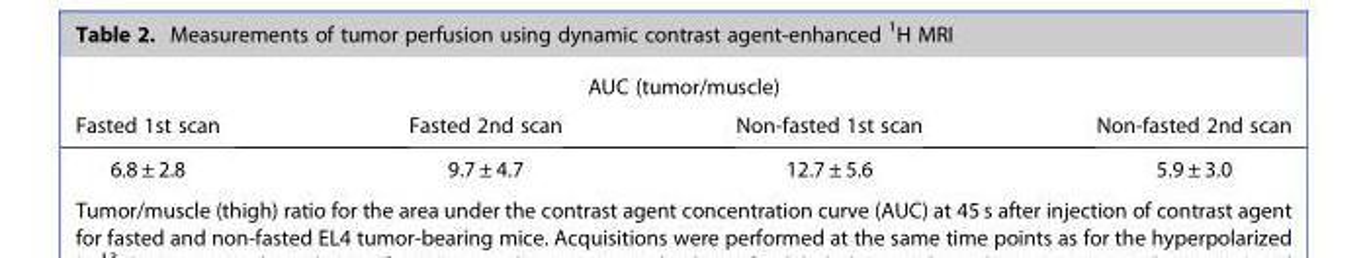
<table><thead><tr><td colspan="4">AUC (tumor/muscle)</td></tr><tr><td>Fasted 1st scan</td><td>Fasted 2nd scan</td><td>Non-fasted 1st scan</td><td>Non-fasted 2nd scan</td></tr></thead><tbody><tr><td>6.8 ± 2.8</td><td>9.7 ± 4.7</td><td>12.7 ± 5.6</td><td>5.9 ± 3.0</td></tr></tbody></table>